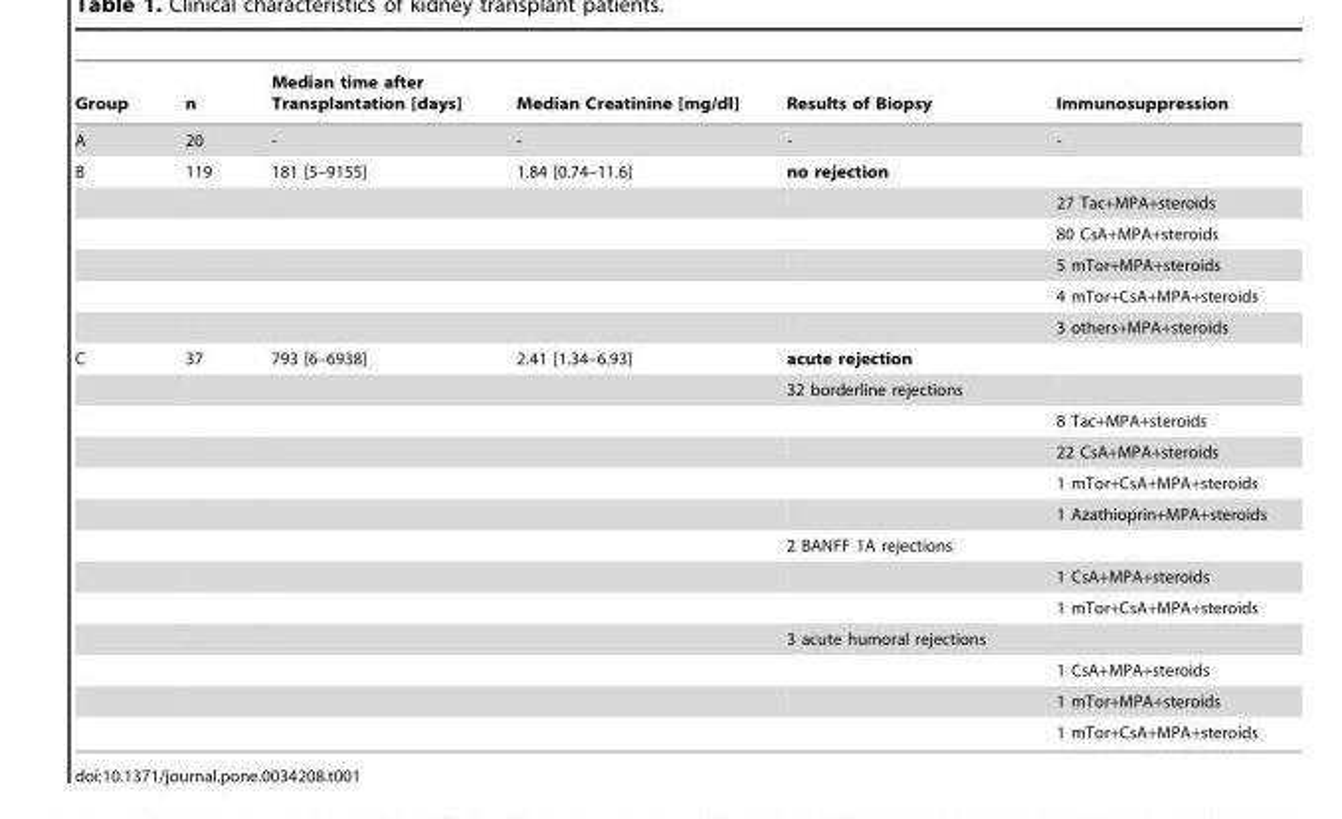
<table><thead><tr><td>Group</td><td>n</td><td>Median time after Transplantation [days]</td><td>Median Creatinine [mg/dl]</td><td>Results of Biopsy</td><td>Immunosuppression</td></tr></thead><tbody><tr><td>A</td><td>20</td><td>-</td><td>-</td><td>-</td><td>-</td></tr><tr><td rowspan="6">B</td><td>119</td><td>181 [5–9155]</td><td>1.84 [0.74–11.6]</td><td>no rejection</td><td></td></tr><tr><td></td><td></td><td></td><td></td><td>27 Tac+MPA+steroids</td></tr><tr><td></td><td></td><td></td><td></td><td>80 CsA+MPA+steroids</td></tr><tr><td></td><td></td><td></td><td></td><td>5 mTor+MPA+steroids</td></tr><tr><td></td><td></td><td></td><td></td><td>4 mTor+CsA+MPA+steroids</td></tr><tr><td></td><td></td><td></td><td></td><td>3 others+MPA+steroids</td></tr><tr><td rowspan="13">C</td><td>37</td><td>793 [6–6938]</td><td>2.41 [1.34–6.93]</td><td>acute rejection</td><td></td></tr><tr><td></td><td></td><td></td><td>32 borderline rejections</td><td></td></tr><tr><td></td><td></td><td></td><td></td><td>8 Tac+MPA+steroids</td></tr><tr><td></td><td></td><td></td><td></td><td>22 CsA+MPA+steroids</td></tr><tr><td></td><td></td><td></td><td></td><td>1 mTor+CsA+MPA+steroids</td></tr><tr><td></td><td></td><td></td><td></td><td>1 Azathioprin+MPA+steroids</td></tr><tr><td></td><td></td><td></td><td>2 BANFF 1A rejections</td><td></td></tr><tr><td></td><td></td><td></td><td></td><td>1 CsA+MPA+steroids</td></tr><tr><td></td><td></td><td></td><td></td><td>1 mTor+CsA+MPA+steroids</td></tr><tr><td></td><td></td><td></td><td>3 acute humoral rejections</td><td></td></tr><tr><td></td><td></td><td></td><td></td><td>1 CsA+MPA+steroids</td></tr><tr><td></td><td></td><td></td><td></td><td>1 mTor+MPA+steroids</td></tr><tr><td></td><td></td><td></td><td></td><td>1 mTor+CsA+MPA+steroids</td></tr></tbody></table>